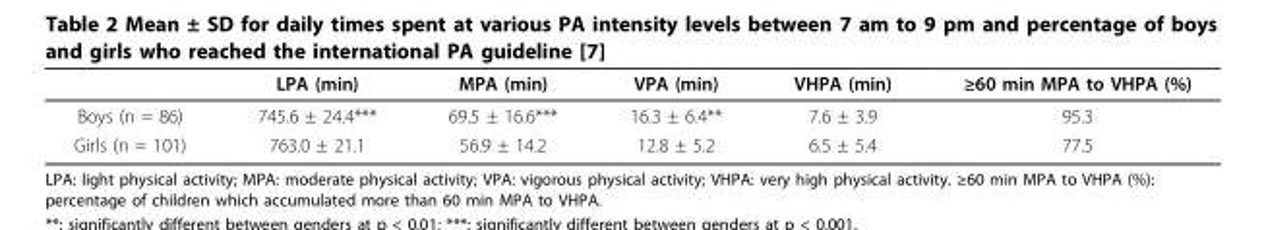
<table><thead><tr><td></td><td>LPA (min)</td><td>MPA (min)</td><td>VPA (min)</td><td>VHPA (min)</td><td>≥60 min MPA to VHPA (%)</td></tr></thead><tbody><tr><td>Boys (n = 86)</td><td>745.6 ± 24.4***</td><td>69.5 ± 16.6***</td><td>16.3 ± 6.4**</td><td>7.6 ± 3.9</td><td>95.3</td></tr><tr><td>Girls (n = 101)</td><td>763.0 ± 21.1</td><td>56.9 ± 14.2</td><td>12.8 ± 5.2</td><td>6.5 ± 5.4</td><td>77.5</td></tr></tbody></table>